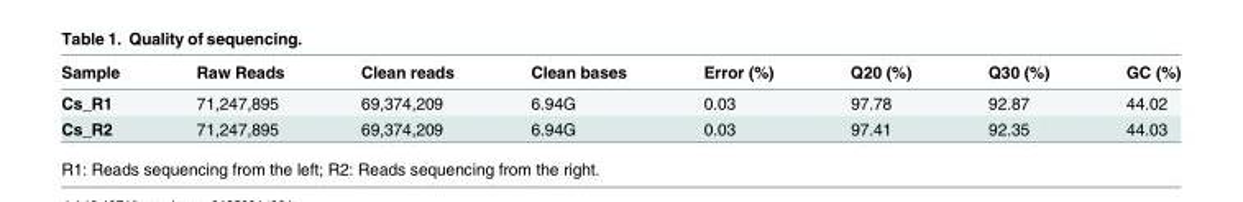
<table><thead><tr><td>Sample</td><td>Raw Reads</td><td>Clean reads</td><td>Clean bases</td><td>Error (%)</td><td>Q20 (%)</td><td>Q30 (%)</td><td>GC (%)</td></tr></thead><tbody><tr><td>Cs_R1</td><td>71,247,895</td><td>69,374,209</td><td>6.94G</td><td>0.03</td><td>97.78</td><td>92.87</td><td>44.02</td></tr><tr><td>Cs_R2</td><td>71,247,895</td><td>69,374,209</td><td>6.94G</td><td>0.03</td><td>97.41</td><td>92.35</td><td>44.03</td></tr></tbody></table>